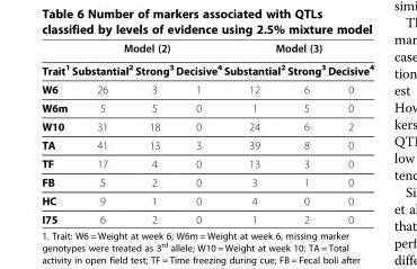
<table><thead><tr><td rowspan="2">Trait<sup>1</sup></td><td colspan="3">Model (2)</td><td colspan="3">Model (3)</td></tr><tr><td>Substantial<sup>2</sup></td><td>Strong<sup>3</sup></td><td>Decisive<sup>4</sup></td><td>Substantial<sup>2</sup></td><td>Strong<sup>3</sup></td><td>Decisive<sup>4</sup></td></tr></thead><tbody><tr><td>W6</td><td>26</td><td>3</td><td>1</td><td>12</td><td>6</td><td>0</td></tr><tr><td>W6m</td><td>5</td><td>5</td><td>0</td><td>1</td><td>5</td><td>0</td></tr><tr><td>W10</td><td>31</td><td>18</td><td>0</td><td>24</td><td>6</td><td>2</td></tr><tr><td>TA</td><td>41</td><td>13</td><td>3</td><td>39</td><td>8</td><td>0</td></tr><tr><td>TF</td><td>17</td><td>4</td><td>0</td><td>13</td><td>3</td><td>0</td></tr><tr><td>FB</td><td>5</td><td>2</td><td>0</td><td>3</td><td>1</td><td>0</td></tr><tr><td>HC</td><td>9</td><td>1</td><td>0</td><td>4</td><td>0</td><td>0</td></tr><tr><td>I75</td><td>6</td><td>2</td><td>0</td><td>1</td><td>2</td><td>0</td></tr></tbody></table>